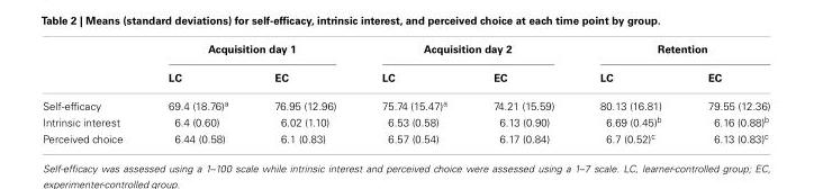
<table><thead><tr><td rowspan="2"></td><td colspan="2">Acquisition day 1</td><td colspan="2">Acquisition day 2</td><td colspan="2">Retention</td></tr><tr><td>LC</td><td>EC</td><td>LC</td><td>EC</td><td>LC</td><td>EC</td></tr></thead><tbody><tr><td>Self-efficacy</td><td>69.4 (18.76)<sup>a</sup></td><td>76.95 (12.96)</td><td>75.74 (15.47)<sup>a</sup></td><td>74.21 (15.59)</td><td>80.13 (16.81)</td><td>79.55 (12.36)</td></tr><tr><td>Intrinsic interest</td><td>6.4 (0.60)</td><td>6.02 (1.10)</td><td>6.53 (0.58)</td><td>6.13 (0.90)</td><td>6.69 (0.45)<sup>b</sup></td><td>6.16 (0.88)<sup>b</sup></td></tr><tr><td>Perceived choice</td><td>6.44 (0.58)</td><td>6.1 (0.83)</td><td>6.57 (0.54)</td><td>6.17 (0.84)</td><td>6.7 (0.52)<sup>c</sup></td><td>6.13 (0.83)<sup>c</sup></td></tr></tbody></table>